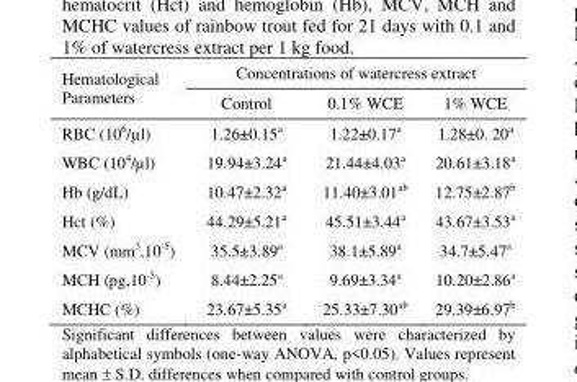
<table><thead><tr><td rowspan="2">Hematological Parameters</td><td colspan="3">Concentrations of watercress extract</td></tr><tr><td>Control</td><td>0.1% WCE</td><td>1% WCE</td></tr></thead><tbody><tr><td>RBC (10<sup>6</sup>/µl)</td><td>1.26±0.15<sup>a</sup></td><td>1.22±0.17<sup>a</sup></td><td>1.28±0. 20<sup>a</sup></td></tr><tr><td>WBC (10<sup>4</sup>/µl)</td><td>19.94±3.24<sup>a</sup></td><td>21.44±4.03<sup>a</sup></td><td>20.61±3.18<sup>a</sup></td></tr><tr><td>Hb (g/dL)</td><td>10.47±2.32<sup>a</sup></td><td>11.40±3.01<sup>ab</sup></td><td>12.75±2.87<sup>b</sup></td></tr><tr><td>Hct (%)</td><td>44.29±5.21<sup>a</sup></td><td>45.51±3.44<sup>a</sup></td><td>43.67±3.53<sup>a</sup></td></tr><tr><td>MCV (mm<sup>3</sup>,10<sup>-5</sup>)</td><td>35.5±3.89<sup>a</sup></td><td>38.1±5.89<sup>a</sup></td><td>34.7±5.47<sup>a</sup></td></tr><tr><td>MCH (pg,10<sup>-5</sup>)</td><td>8.44±2.25<sup>a</sup></td><td>9.69±3.34<sup>a</sup></td><td>10.20±2.86<sup>a</sup></td></tr><tr><td>MCHC (%)</td><td>23.67±5.35<sup>a</sup></td><td>25.33±7.30<sup>ab</sup></td><td>29.39±6.97<sup>b</sup></td></tr></tbody></table>